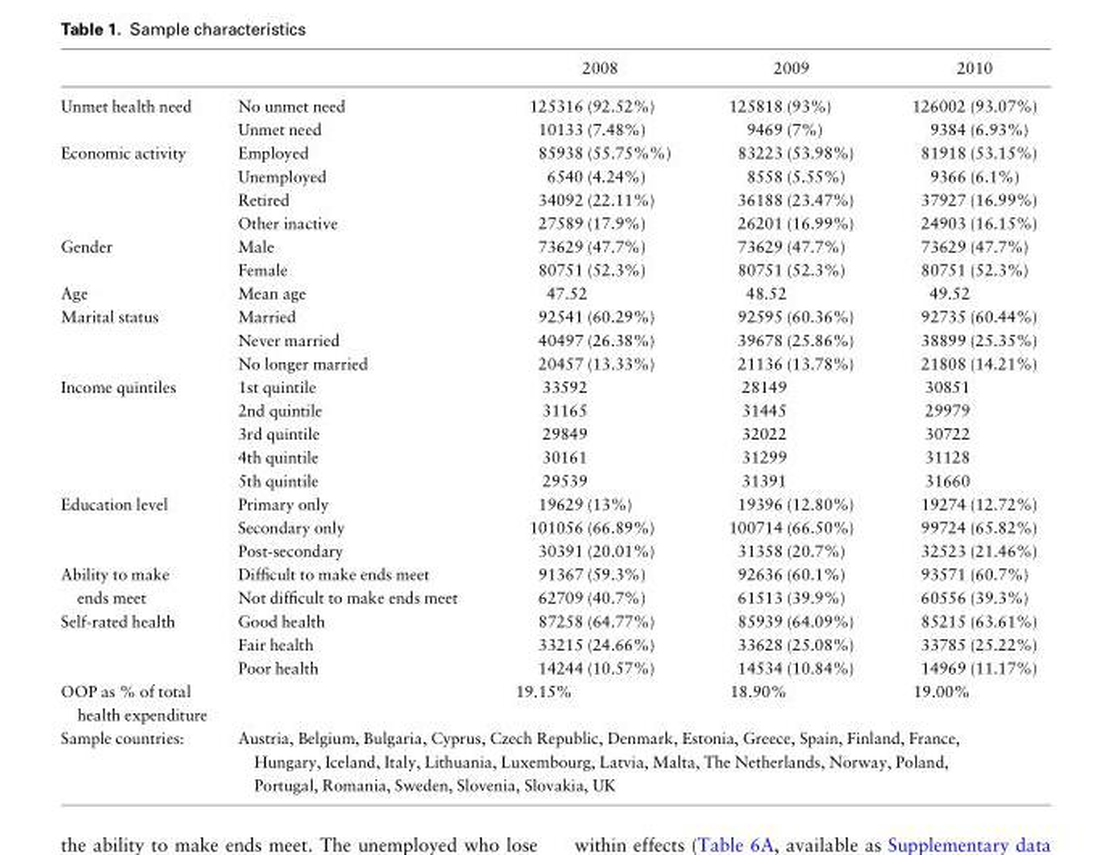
<table><thead><tr><td></td><td></td><td>2008</td><td>2009</td><td>2010</td></tr></thead><tbody><tr><td rowspan="2">Unmet health need</td><td>No unmet need</td><td>125316 (92.52%)</td><td>125818 (93%)</td><td>126002 (93.07%)</td></tr><tr><td>Unmet need</td><td>10133 (7.48%)</td><td>9469 (7%)</td><td>9384 (6.93%)</td></tr><tr><td rowspan="4">Economic activity</td><td>Employed</td><td>85938 (55.75%%)</td><td>83223 (53.98%)</td><td>81918 (53.15%)</td></tr><tr><td>Unemployed</td><td>6540 (4.24%)</td><td>8558 (5.55%)</td><td>9366 (6.1%)</td></tr><tr><td>Retired</td><td>34092 (22.11%)</td><td>36188 (23.47%)</td><td>37927 (16.99%)</td></tr><tr><td>Other inactive</td><td>27589 (17.9%)</td><td>26201 (16.99%)</td><td>24903 (16.15%)</td></tr><tr><td rowspan="2">Gender</td><td>Male</td><td>73629 (47.7%)</td><td>73629 (47.7%)</td><td>73629 (47.7%)</td></tr><tr><td>Female</td><td>80751 (52.3%)</td><td>80751 (52.3%)</td><td>80751 (52.3%)</td></tr><tr><td>Age</td><td>Mean age</td><td>47.52</td><td>48.52</td><td>49.52</td></tr><tr><td rowspan="3">Marital status</td><td>Married</td><td>92541 (60.29%)</td><td>92595 (60.36%)</td><td>92735 (60.44%)</td></tr><tr><td>Never married</td><td>40497 (26.38%)</td><td>39678 (25.86%)</td><td>38899 (25.35%)</td></tr><tr><td>No longer married</td><td>20457 (13.33%)</td><td>21136 (13.78%)</td><td>21808 (14.21%)</td></tr><tr><td rowspan="5">Income quintiles</td><td>1st quintile</td><td>33592</td><td>28149</td><td>30851</td></tr><tr><td>2nd quintile</td><td>31165</td><td>31445</td><td>29979</td></tr><tr><td>3rd quintile</td><td>29849</td><td>32022</td><td>30722</td></tr><tr><td>4th quintile</td><td>30161</td><td>31299</td><td>31128</td></tr><tr><td>5th quintile</td><td>29539</td><td>31391</td><td>31660</td></tr><tr><td rowspan="3">Education level</td><td>Primary only</td><td>19629 (13%)</td><td>19396 (12.80%)</td><td>19274 (12.72%)</td></tr><tr><td>Secondary only</td><td>101056 (66.89%)</td><td>100714 (66.50%)</td><td>99724 (65.82%)</td></tr><tr><td>Post-secondary</td><td>30391 (20.01%)</td><td>31358 (20.7%)</td><td>32523 (21.46%)</td></tr><tr><td rowspan="2">Ability to make ends meet</td><td>Difficult to make ends meet</td><td>91367 (59.3%)</td><td>92636 (60.1%)</td><td>93571 (60.7%)</td></tr><tr><td>Not difficult to make ends meet</td><td>62709 (40.7%)</td><td>61513 (39.9%)</td><td>60556 (39.3%)</td></tr><tr><td rowspan="3">Self-rated health</td><td>Good health</td><td>87258 (64.77%)</td><td>85939 (64.09%)</td><td>85215 (63.61%)</td></tr><tr><td>Fair health</td><td>33215 (24.66%)</td><td>33628 (25.08%)</td><td>33785 (25.22%)</td></tr><tr><td>Poor health</td><td>14244 (10.57%)</td><td>14534 (10.84%)</td><td>14969 (11.17%)</td></tr><tr><td>OOP as % of total health expenditure</td><td></td><td>19.15%</td><td>18.90%</td><td>19.00%</td></tr><tr><td>Sample countries:</td><td colspan="4">Austria, Belgium, Bulgaria, Cyprus, Czech Republic, Denmark, Estonia, Greece, Spain, Finland, France, Hungary, Iceland, Italy, Lithuania, Luxembourg, Latvia, Malta, The Netherlands, Norway, Poland, Portugal, Romania, Sweden, Slovenia, Slovakia, UK</td></tr></tbody></table>